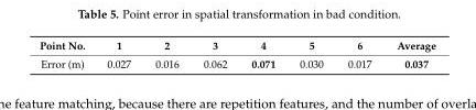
<table><thead><tr><td>Point No.</td><td>1</td><td>2</td><td>3</td><td>4</td><td>5</td><td>6</td><td>Average</td></tr></thead><tbody><tr><td>Error (m)</td><td>0.027</td><td>0.016</td><td>0.062</td><td>0.071</td><td>0.030</td><td>0.017</td><td>0.037</td></tr></tbody></table>